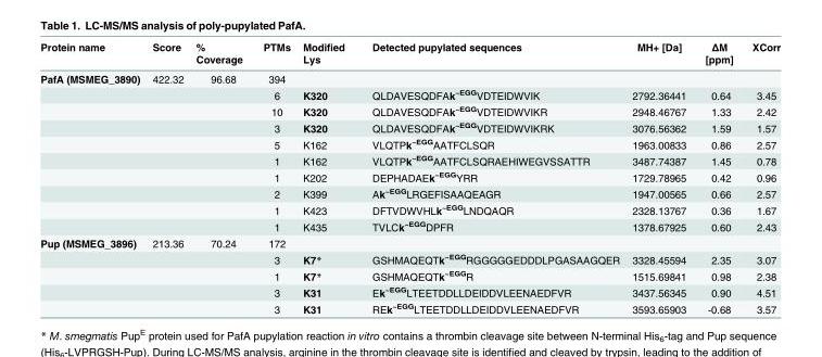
<table><thead><tr><td>Protein name</td><td>Score</td><td>% Coverage</td><td>PTMs</td><td>Modified Lys</td><td>Detected pupylated sequences</td><td>MH+ [Da]</td><td>ΔM [ppm]</td><td>XCorr</td></tr></thead><tbody><tr><td rowspan="10">PafA (MSMEG_3890)</td><td>422.32</td><td>96.68</td><td>394</td><td></td><td></td><td></td><td></td><td></td></tr><tr><td></td><td></td><td>6</td><td>K320</td><td>QLDAVESQDFAk<sup>~EGG</sup>VDTEIDWVIK</td><td>2792.36441</td><td>0.64</td><td>3.45</td></tr><tr><td></td><td></td><td>10</td><td>K320</td><td>QLDAVESQDFAk<sup>~EGG</sup>VDTEIDWVIKR</td><td>2948.46767</td><td>1.33</td><td>2.42</td></tr><tr><td></td><td></td><td>3</td><td>K320</td><td>QLDAVESQDFAk<sup>~EGG</sup>VDTEIDWVIKRK</td><td>3076.56362</td><td>1.59</td><td>1.57</td></tr><tr><td></td><td></td><td>5</td><td>K162</td><td>VLQTPk<sup>~EGG</sup>AATFCLSQR</td><td>1963.00833</td><td>0.86</td><td>2.57</td></tr><tr><td></td><td></td><td>1</td><td>K162</td><td>VLQTPk<sup>~EGG</sup>AATFCLSQRAEHIWEGVSSATTR</td><td>3487.74387</td><td>1.45</td><td>0.78</td></tr><tr><td></td><td></td><td>1</td><td>K202</td><td>DEPHADAEk<sup>~EGG</sup>YRR</td><td>1729.78965</td><td>0.42</td><td>0.96</td></tr><tr><td></td><td></td><td>2</td><td>K399</td><td>Ak<sup>~EGG</sup>LRGEFISAAQEAGR</td><td>1947.00565</td><td>0.66</td><td>2.57</td></tr><tr><td></td><td></td><td>1</td><td>K423</td><td>DFTVDWVHLk<sup>~EGG</sup>LNDQAQR</td><td>2328.13767</td><td>0.36</td><td>1.67</td></tr><tr><td></td><td></td><td>1</td><td>K435</td><td>TVLCk<sup>~EGG</sup>DPFR</td><td>1378.67925</td><td>0.60</td><td>2.43</td></tr><tr><td rowspan="5">Pup (MSMEG_3896)</td><td>213.36</td><td>70.24</td><td>172</td><td></td><td></td><td></td><td></td><td></td></tr><tr><td></td><td></td><td>3</td><td>K7*</td><td>GSHMAQEQTk<sup>~EGG</sup>RGGGGGEDDDLPGASAAGQER</td><td>3328.45594</td><td>2.35</td><td>3.07</td></tr><tr><td></td><td></td><td>1</td><td>K7*</td><td>GSHMAQEQTk<sup>~EGG</sup>R</td><td>1515.69841</td><td>0.98</td><td>2.38</td></tr><tr><td></td><td></td><td>3</td><td>K31</td><td>Ek<sup>~EGG</sup>LTEETDDLLDEIDDVLEENAEDFVR</td><td>3437.56345</td><td>0.90</td><td>4.51</td></tr><tr><td></td><td></td><td>3</td><td>K31</td><td>REk<sup>~EGG</sup>LTEETDDLLDEIDDVLEENAEDFVR</td><td>3593.65903</td><td>-0.68</td><td>3.57</td></tr></tbody></table>